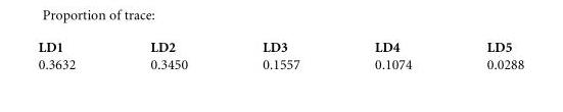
<table><tbody><tr><td>LD1</td><td>LD2</td><td>LD3</td><td>LD4</td><td>LD5</td></tr><tr><td>0.3632</td><td>0.3450</td><td>0.1557</td><td>0.1074</td><td>0.0288</td></tr></tbody></table>